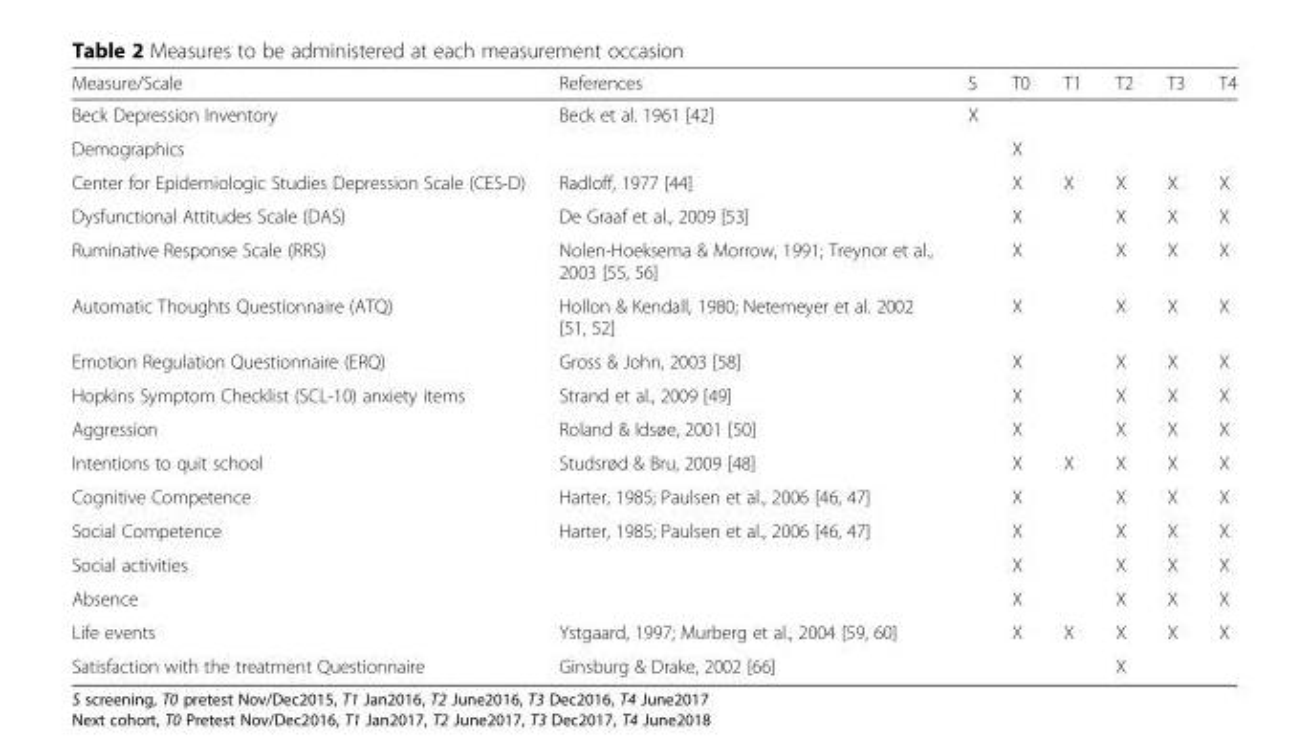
<table><thead><tr><td>Measure/Scale</td><td>References</td><td>S</td><td>T0</td><td>T1</td><td>T2</td><td>T3</td><td>T4</td></tr></thead><tbody><tr><td>Beck Depression Inventory</td><td>Beck et al. 1961 [42]</td><td>X</td><td></td><td></td><td></td><td></td><td></td></tr><tr><td>Demographics</td><td></td><td></td><td>X</td><td></td><td></td><td></td><td></td></tr><tr><td>Center for Epidemiologic Studies Depression Scale (CES-D)</td><td>Radloff, 1977 [44]</td><td></td><td>X</td><td>X</td><td>X</td><td>X</td><td>X</td></tr><tr><td>Dysfunctional Attitudes Scale (DAS)</td><td>De Graaf et al., 2009 [53]</td><td></td><td>X</td><td></td><td>X</td><td>X</td><td>X</td></tr><tr><td>Ruminative Response Scale (RRS)</td><td>Nolen-Hoeksema &amp; Morrow, 1991; Treynor et al., 2003 [55, 56]</td><td></td><td>X</td><td></td><td>X</td><td>X</td><td>X</td></tr><tr><td>Automatic Thoughts Questionnaire (ATQ)</td><td>Hollon &amp; Kendall, 1980; Netemeyer et al. 2002 [51, 52]</td><td></td><td>X</td><td></td><td>X</td><td>X</td><td>X</td></tr><tr><td>Emotion Regulation Questionnaire (ERQ)</td><td>Gross &amp; John, 2003 [58]</td><td></td><td>X</td><td></td><td>X</td><td>X</td><td>X</td></tr><tr><td>Hopkins Symptom Checklist (SCL-10) anxiety items</td><td>Strand et al., 2009 [49]</td><td></td><td>X</td><td></td><td>X</td><td>X</td><td>X</td></tr><tr><td>Aggression</td><td>Roland &amp; Idsøe, 2001 [50]</td><td></td><td>X</td><td></td><td>X</td><td>X</td><td>X</td></tr><tr><td>Intentions to quit school</td><td>Studsrød &amp; Bru, 2009 [48]</td><td></td><td>X</td><td>X</td><td>X</td><td>X</td><td>X</td></tr><tr><td>Cognitive Competence</td><td>Harter, 1985; Paulsen et al., 2006 [46, 47]</td><td></td><td>X</td><td></td><td>X</td><td>X</td><td>X</td></tr><tr><td>Social Competence</td><td>Harter, 1985; Paulsen et al., 2006 [46, 47]</td><td></td><td>X</td><td></td><td>X</td><td>X</td><td>X</td></tr><tr><td>Social activities</td><td></td><td></td><td>X</td><td></td><td>X</td><td>X</td><td>X</td></tr><tr><td>Absence</td><td></td><td></td><td>X</td><td></td><td>X</td><td>X</td><td>X</td></tr><tr><td>Life events</td><td>Ystgaard, 1997; Murberg et al., 2004 [59, 60]</td><td></td><td>X</td><td>X</td><td>X</td><td>X</td><td>X</td></tr><tr><td>Satisfaction with the treatment Questionnaire</td><td>Ginsburg &amp; Drake, 2002 [66]</td><td></td><td></td><td></td><td>X</td><td></td><td></td></tr></tbody></table>